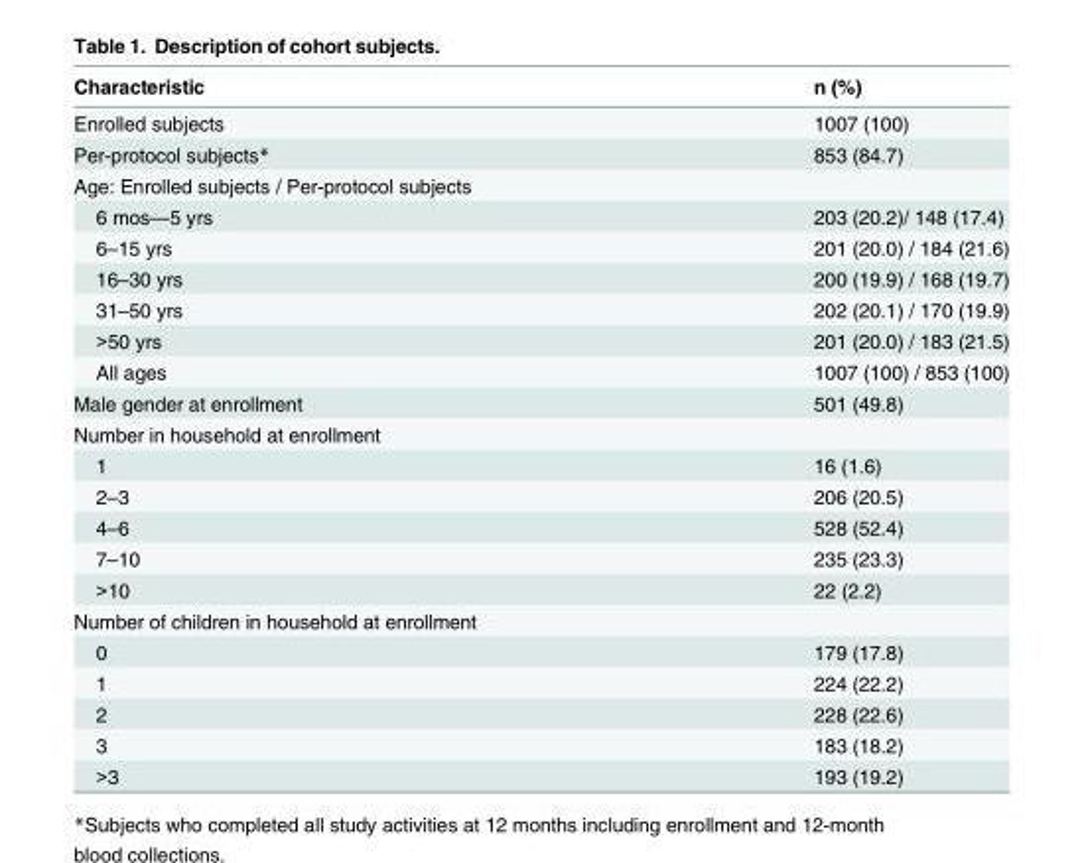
<table><thead><tr><td>Characteristic</td><td>n (%)</td></tr></thead><tbody><tr><td>Enrolled subjects</td><td>1007 (100)</td></tr><tr><td>Per-protocol subjects*</td><td>853 (84.7)</td></tr><tr><td colspan="2">Age: Enrolled subjects / Per-protocol subjects</td></tr><tr><td>6 mos—5 yrs</td><td>203 (20.2)/ 148 (17.4)</td></tr><tr><td>6–15 yrs</td><td>201 (20.0) / 184 (21.6)</td></tr><tr><td>16–30 yrs</td><td>200 (19.9) / 168 (19.7)</td></tr><tr><td>31–50 yrs</td><td>202 (20.1) / 170 (19.9)</td></tr><tr><td>&gt;50 yrs</td><td>201 (20.0) / 183 (21.5)</td></tr><tr><td>All ages</td><td>1007 (100) / 853 (100)</td></tr><tr><td>Male gender at enrollment</td><td>501 (49.8)</td></tr><tr><td colspan="2">Number in household at enrollment</td></tr><tr><td>1</td><td>16 (1.6)</td></tr><tr><td>2–3</td><td>206 (20.5)</td></tr><tr><td>4–6</td><td>528 (52.4)</td></tr><tr><td>7–10</td><td>235 (23.3)</td></tr><tr><td>&gt;10</td><td>22 (2.2)</td></tr><tr><td colspan="2">Number of children in household at enrollment</td></tr><tr><td>0</td><td>179 (17.8)</td></tr><tr><td>1</td><td>224 (22.2)</td></tr><tr><td>2</td><td>228 (22.6)</td></tr><tr><td>3</td><td>183 (18.2)</td></tr><tr><td>&gt;3</td><td>193 (19.2)</td></tr></tbody></table>